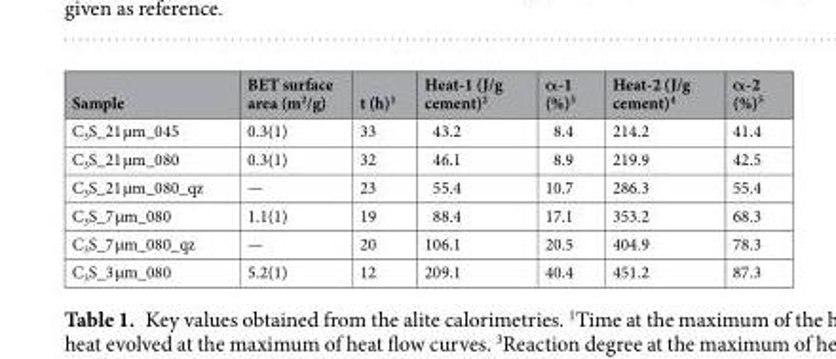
<table><thead><tr><td>Sample</td><td>BET surface area (m<sup>2</sup>/g)</td><td>t (h)<sup>1</sup></td><td>Heat-1 (J/g cement)<sup>2</sup></td><td>α-1 (%)<sup>3</sup></td><td>Heat-2 (J/g cement)<sup>4</sup></td><td>α-2 (%)<sup>5</sup></td></tr></thead><tbody><tr><td>C<sub>3</sub>S_21 µm_045</td><td>0.3(1)</td><td>33</td><td>43.2</td><td>8.4</td><td>214.2</td><td>41.4</td></tr><tr><td>C<sub>3</sub>S_21 µm_080</td><td>0.3(1)</td><td>32</td><td>46.1</td><td>8.9</td><td>219.9</td><td>42.5</td></tr><tr><td>C<sub>3</sub>S_21 µm_080_qz</td><td>—</td><td>23</td><td>55.4</td><td>10.7</td><td>286.3</td><td>55.4</td></tr><tr><td>C<sub>3</sub>S_7 µm_080</td><td>1.1(1)</td><td>19</td><td>88.4</td><td>17.1</td><td>353.2</td><td>68.3</td></tr><tr><td>C<sub>3</sub>S_7 µm_080_qz</td><td>—</td><td>20</td><td>106.1</td><td>20.5</td><td>404.9</td><td>78.3</td></tr><tr><td>C<sub>3</sub>S_3 µm_080</td><td>5.2(1)</td><td>12</td><td>209.1</td><td>40.4</td><td>451.2</td><td>87.3</td></tr></tbody></table>